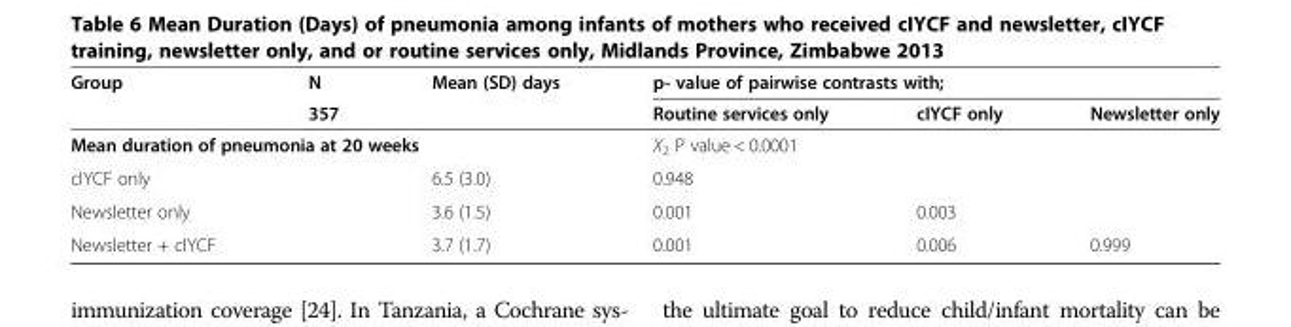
<table><thead><tr><td rowspan="2">Group</td><td rowspan="2">N 357</td><td rowspan="2">Mean (SD) days</td><td colspan="3">p- value of pairwise contrasts with;</td></tr><tr><td>Routine services only</td><td>cIYCF only</td><td>Newsletter only</td></tr></thead><tbody><tr><td colspan="3">Mean duration of pneumonia at 20 weeks</td><td colspan="3">X<sub>2</sub> P value &lt; 0.0001</td></tr><tr><td>cIYCF only</td><td></td><td>6.5 (3.0)</td><td>0.948</td><td></td><td></td></tr><tr><td>Newsletter only</td><td></td><td>3.6 (1.5)</td><td>0.001</td><td>0.003</td><td></td></tr><tr><td>Newsletter + cIYCF</td><td></td><td>3.7 (1.7)</td><td>0.001</td><td>0.006</td><td>0.999</td></tr></tbody></table>